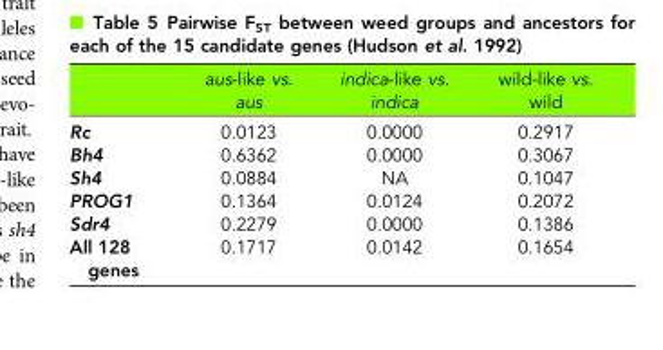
<table><thead><tr><td></td><td>aus-like vs. aus</td><td>indica-like vs. indica</td><td>wild-like vs. wild</td></tr></thead><tbody><tr><td>Rc</td><td>0.0123</td><td>0.0000</td><td>0.2917</td></tr><tr><td>Bh4</td><td>0.6362</td><td>0.0000</td><td>0.3067</td></tr><tr><td>Sh4</td><td>0.0884</td><td>NA</td><td>0.1047</td></tr><tr><td>PROG1</td><td>0.1364</td><td>0.0124</td><td>0.2072</td></tr><tr><td>Sdr4</td><td>0.2279</td><td>0.0000</td><td>0.1386</td></tr><tr><td>All 128 genes</td><td>0.1717</td><td>0.0142</td><td>0.1654</td></tr></tbody></table>